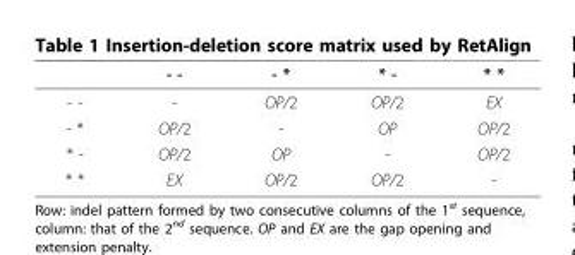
<table><thead><tr><td></td><td>- -</td><td>- *</td><td>* -</td><td>* *</td></tr></thead><tbody><tr><td>- -</td><td>-</td><td>OP/2</td><td>OP/2</td><td>EX</td></tr><tr><td>- *</td><td>OP/2</td><td>-</td><td>OP</td><td>OP/2</td></tr><tr><td>* -</td><td>OP/2</td><td>OP</td><td>-</td><td>OP/2</td></tr><tr><td>* *</td><td>EX</td><td>OP/2</td><td>OP/2</td><td>-</td></tr></tbody></table>